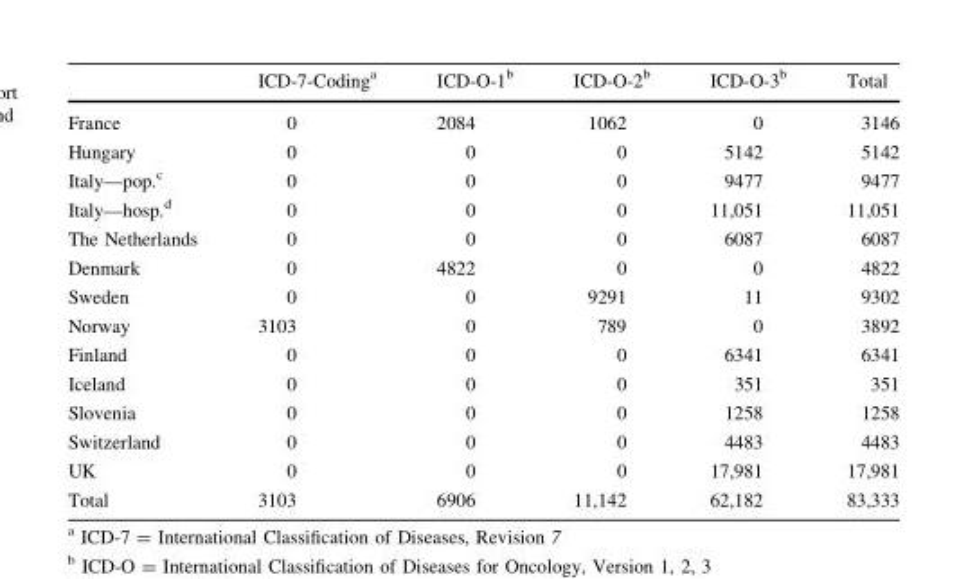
<table><thead><tr><td></td><td>ICD-7-Coding<sup>a</sup></td><td>ICD-O-1<sup>b</sup></td><td>ICD-O-2<sup>b</sup></td><td>ICD-O-3<sup>b</sup></td><td>Total</td></tr></thead><tbody><tr><td>France</td><td>0</td><td>2084</td><td>1062</td><td>0</td><td>3146</td></tr><tr><td>Hungary</td><td>0</td><td>0</td><td>0</td><td>5142</td><td>5142</td></tr><tr><td>Italy—pop.<sup>c</sup></td><td>0</td><td>0</td><td>0</td><td>9477</td><td>9477</td></tr><tr><td>Italy—hosp.<sup>d</sup></td><td>0</td><td>0</td><td>0</td><td>11,051</td><td>11,051</td></tr><tr><td>The Netherlands</td><td>0</td><td>0</td><td>0</td><td>6087</td><td>6087</td></tr><tr><td>Denmark</td><td>0</td><td>4822</td><td>0</td><td>0</td><td>4822</td></tr><tr><td>Sweden</td><td>0</td><td>0</td><td>9291</td><td>11</td><td>9302</td></tr><tr><td>Norway</td><td>3103</td><td>0</td><td>789</td><td>0</td><td>3892</td></tr><tr><td>Finland</td><td>0</td><td>0</td><td>0</td><td>6341</td><td>6341</td></tr><tr><td>Iceland</td><td>0</td><td>0</td><td>0</td><td>351</td><td>351</td></tr><tr><td>Slovenia</td><td>0</td><td>0</td><td>0</td><td>1258</td><td>1258</td></tr><tr><td>Switzerland</td><td>0</td><td>0</td><td>0</td><td>4483</td><td>4483</td></tr><tr><td>UK</td><td>0</td><td>0</td><td>0</td><td>17,981</td><td>17,981</td></tr><tr><td>Total</td><td>3103</td><td>6906</td><td>11,142</td><td>62,182</td><td>83,333</td></tr></tbody></table>